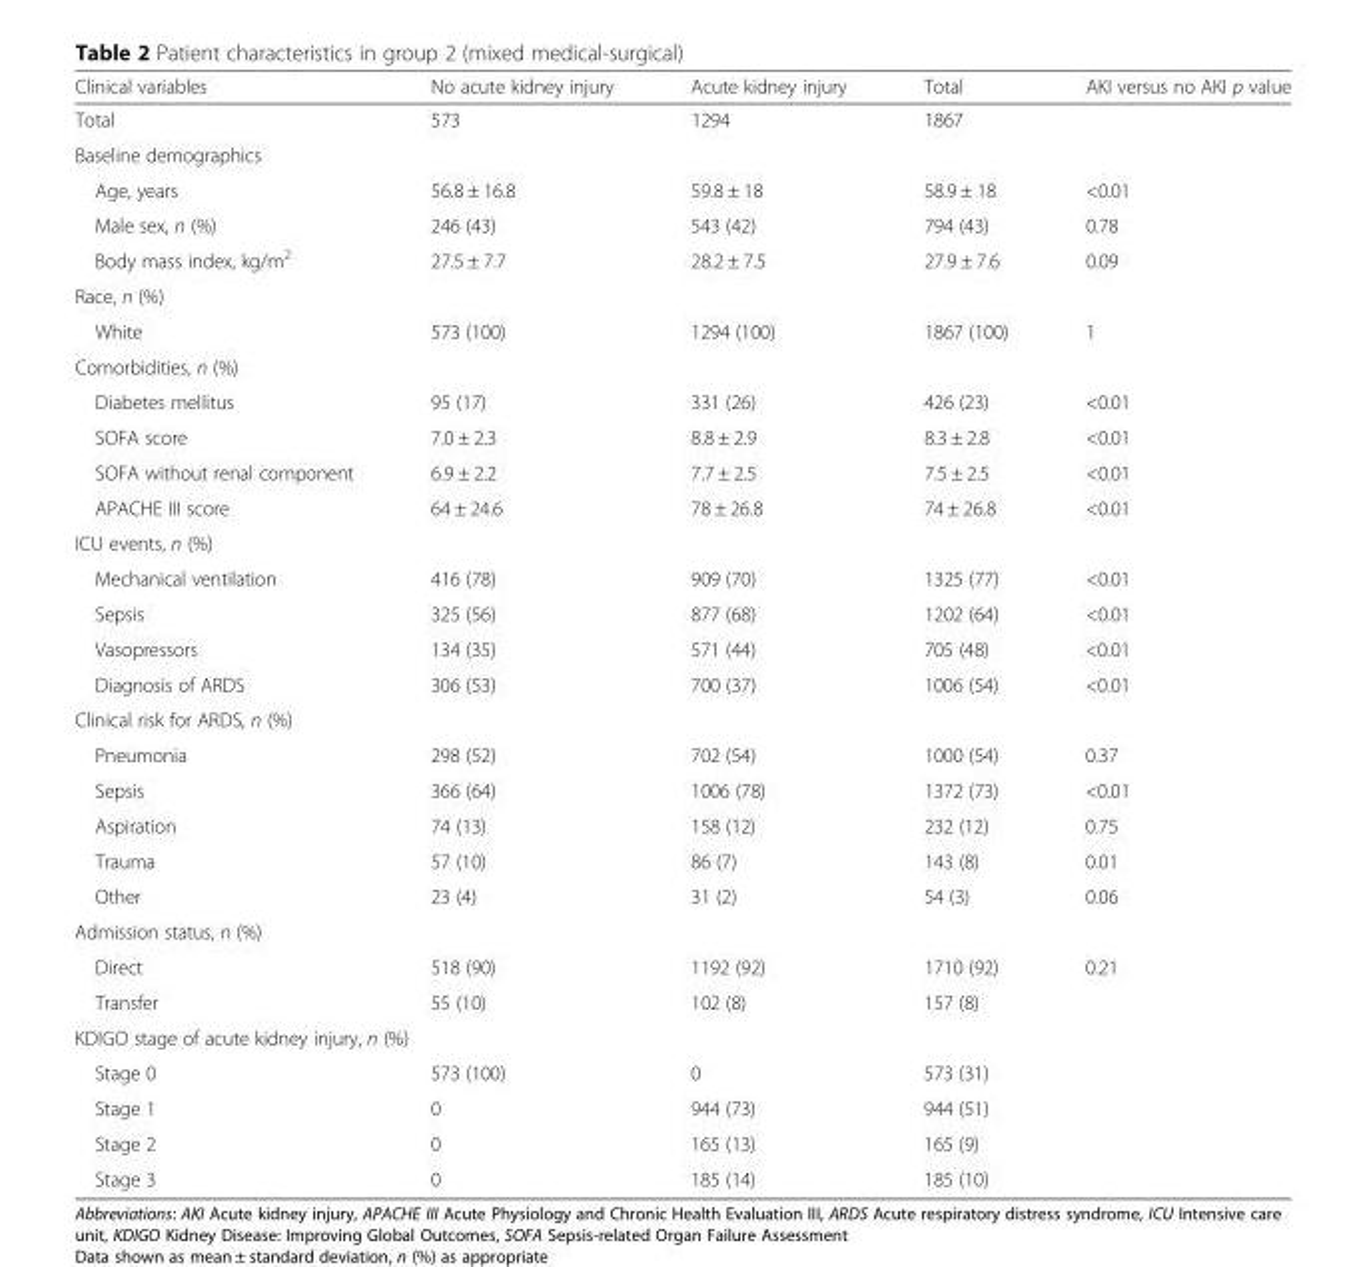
<table><thead><tr><td>Clinical variables</td><td>No acute kidney injury</td><td>Acute kidney injury</td><td>Total</td><td>AKI versus no AKI p value</td></tr></thead><tbody><tr><td>Total</td><td>573</td><td>1294</td><td>1867</td><td></td></tr><tr><td colspan="5">Baseline demographics</td></tr><tr><td>Age, years</td><td>56.8 ± 16.8</td><td>59.8 ± 18</td><td>58.9 ± 18</td><td>&lt;0.01</td></tr><tr><td>Male sex, n (%)</td><td>246 (43)</td><td>543 (42)</td><td>794 (43)</td><td>0.78</td></tr><tr><td>Body mass index, kg/m<sup>2</sup></td><td>27.5 ± 7.7</td><td>28.2 ± 7.5</td><td>27.9 ± 7.6</td><td>0.09</td></tr><tr><td colspan="5">Race, n (%)</td></tr><tr><td>White</td><td>573 (100)</td><td>1294 (100)</td><td>1867 (100)</td><td>1</td></tr><tr><td colspan="5">Comorbidities, n (%)</td></tr><tr><td>Diabetes mellitus</td><td>95 (17)</td><td>331 (26)</td><td>426 (23)</td><td>&lt;0.01</td></tr><tr><td>SOFA score</td><td>7.0 ± 2.3</td><td>8.8 ± 2.9</td><td>8.3 ± 2.8</td><td>&lt;0.01</td></tr><tr><td>SOFA without renal component</td><td>6.9 ± 2.2</td><td>7.7 ± 2.5</td><td>7.5 ± 2.5</td><td>&lt;0.01</td></tr><tr><td>APACHE III score</td><td>64 ± 24.6</td><td>78 ± 26.8</td><td>74 ± 26.8</td><td>&lt;0.01</td></tr><tr><td colspan="5">ICU events, n (%)</td></tr><tr><td>Mechanical ventilation</td><td>416 (78)</td><td>909 (70)</td><td>1325 (77)</td><td>&lt;0.01</td></tr><tr><td>Sepsis</td><td>325 (56)</td><td>877 (68)</td><td>1202 (64)</td><td>&lt;0.01</td></tr><tr><td>Vasopressors</td><td>134 (35)</td><td>571 (44)</td><td>705 (48)</td><td>&lt;0.01</td></tr><tr><td>Diagnosis of ARDS</td><td>306 (53)</td><td>700 (37)</td><td>1006 (54)</td><td>&lt;0.01</td></tr><tr><td colspan="5">Clinical risk for ARDS, n (%)</td></tr><tr><td>Pneumonia</td><td>298 (52)</td><td>702 (54)</td><td>1000 (54)</td><td>0.37</td></tr><tr><td>Sepsis</td><td>366 (64)</td><td>1006 (78)</td><td>1372 (73)</td><td>&lt;0.01</td></tr><tr><td>Aspiration</td><td>74 (13)</td><td>158 (12)</td><td>232 (12)</td><td>0.75</td></tr><tr><td>Trauma</td><td>57 (10)</td><td>86 (7)</td><td>143 (8)</td><td>0.01</td></tr><tr><td>Other</td><td>23 (4)</td><td>31 (2)</td><td>54 (3)</td><td>0.06</td></tr><tr><td colspan="5">Admission status, n (%)</td></tr><tr><td>Direct</td><td>518 (90)</td><td>1192 (92)</td><td>1710 (92)</td><td>0.21</td></tr><tr><td>Transfer</td><td>55 (10)</td><td>102 (8)</td><td>157 (8)</td><td></td></tr><tr><td colspan="5">KDIGO stage of acute kidney injury, n (%)</td></tr><tr><td>Stage 0</td><td>573 (100)</td><td>0</td><td>573 (31)</td><td></td></tr><tr><td>Stage 1</td><td>0</td><td>944 (73)</td><td>944 (51)</td><td></td></tr><tr><td>Stage 2</td><td>0</td><td>165 (13)</td><td>165 (9)</td><td></td></tr><tr><td>Stage 3</td><td>0</td><td>185 (14)</td><td>185 (10)</td><td></td></tr></tbody></table>